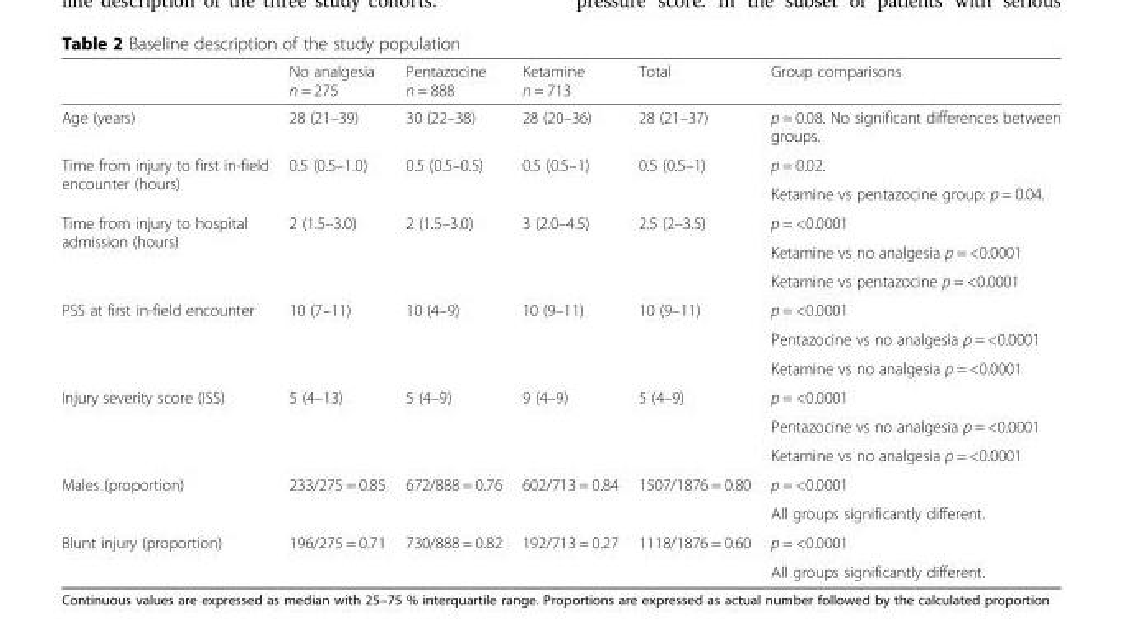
<table><thead><tr><td></td><td>No analgesia n = 275</td><td>Pentazocine n = 888</td><td>Ketamine n = 713</td><td>Total</td><td>Group comparisons</td></tr></thead><tbody><tr><td>Age (years)</td><td>28 (21–39)</td><td>30 (22–38)</td><td>28 (20–36)</td><td>28 (21–37)</td><td>p = 0.08. No significant differences between groups.</td></tr><tr><td rowspan="2">Time from injury to first in-field encounter (hours)</td><td rowspan="2">0.5 (0.5–1.0)</td><td rowspan="2">0.5 (0.5–0.5)</td><td rowspan="2">0.5 (0.5–1)</td><td rowspan="2">0.5 (0.5–1)</td><td>p = 0.02.</td></tr><tr><td>Ketamine vs pentazocine group: p = 0.04.</td></tr><tr><td rowspan="3">Time from injury to hospital admission (hours)</td><td rowspan="3">2 (1.5–3.0)</td><td rowspan="3">2 (1.5–3.0)</td><td rowspan="3">3 (2.0–4.5)</td><td rowspan="3">2.5 (2–3.5)</td><td>p = &lt;0.0001</td></tr><tr><td>Ketamine vs no analgesia p = &lt;0.0001</td></tr><tr><td>Ketamine vs pentazocine p = &lt;0.0001</td></tr><tr><td rowspan="3">PSS at first in-field encounter</td><td rowspan="3">10 (7–11)</td><td rowspan="3">10 (4–9)</td><td rowspan="3">10 (9–11)</td><td rowspan="3">10 (9–11)</td><td>p = &lt;0.0001</td></tr><tr><td>Pentazocine vs no analgesia p = &lt;0.0001</td></tr><tr><td>Ketamine vs no analgesia p = &lt;0.0001</td></tr><tr><td rowspan="3">Injury severity score (ISS)</td><td rowspan="3">5 (4–13)</td><td rowspan="3">5 (4–9)</td><td rowspan="3">9 (4–9)</td><td rowspan="3">5 (4–9)</td><td>p = &lt;0.0001</td></tr><tr><td>Pentazocine vs no analgesia p = &lt;0.0001</td></tr><tr><td>Ketamine vs no analgesia p = &lt;0.0001</td></tr><tr><td rowspan="2">Males (proportion)</td><td rowspan="2">233/275 = 0.85</td><td rowspan="2">672/888 = 0.76</td><td rowspan="2">602/713 = 0.84</td><td rowspan="2">1507/1876 = 0.80</td><td>p = &lt;0.0001</td></tr><tr><td>All groups significantly different.</td></tr><tr><td rowspan="2">Blunt injury (proportion)</td><td rowspan="2">196/275 = 0.71</td><td rowspan="2">730/888 = 0.82</td><td rowspan="2">192/713 = 0.27</td><td rowspan="2">1118/1876 = 0.60</td><td>p = &lt;0.0001</td></tr><tr><td>All groups significantly different.</td></tr></tbody></table>